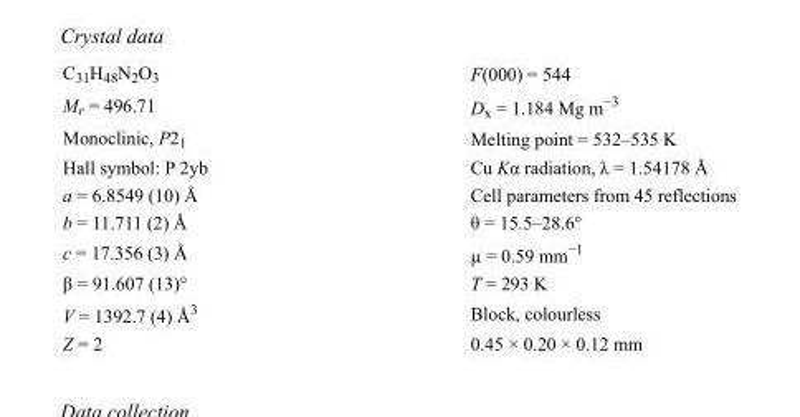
<table><tbody><tr><td>C<sub>31</sub>H<sub>48</sub>N<sub>2</sub>O<sub>3</sub></td><td>F(000) = 544</td></tr><tr><td>M<sub>r</sub> = 496.71</td><td>D<sub>x</sub> = 1.184 Mg m<sup>−3</sup></td></tr><tr><td>Monoclinic, P2<sub>1</sub></td><td>Melting point = 532–535 K</td></tr><tr><td>Hall symbol: P 2yb</td><td>Cu Kα radiation, λ = 1.54178 Å</td></tr><tr><td>a = 6.8549 (10) Å</td><td>Cell parameters from 45 reflections</td></tr><tr><td>b = 11.711 (2) Å</td><td>θ = 15.5–28.6°</td></tr><tr><td>c = 17.356 (3) Å</td><td>µ = 0.59 mm<sup>−1</sup></td></tr><tr><td>β = 91.607 (13)°</td><td>T = 293 K</td></tr><tr><td>V = 1392.7 (4) Å<sup>3</sup></td><td>Block, colourless</td></tr><tr><td>Z = 2</td><td>0.45 × 0.20 × 0.12 mm</td></tr></tbody></table>